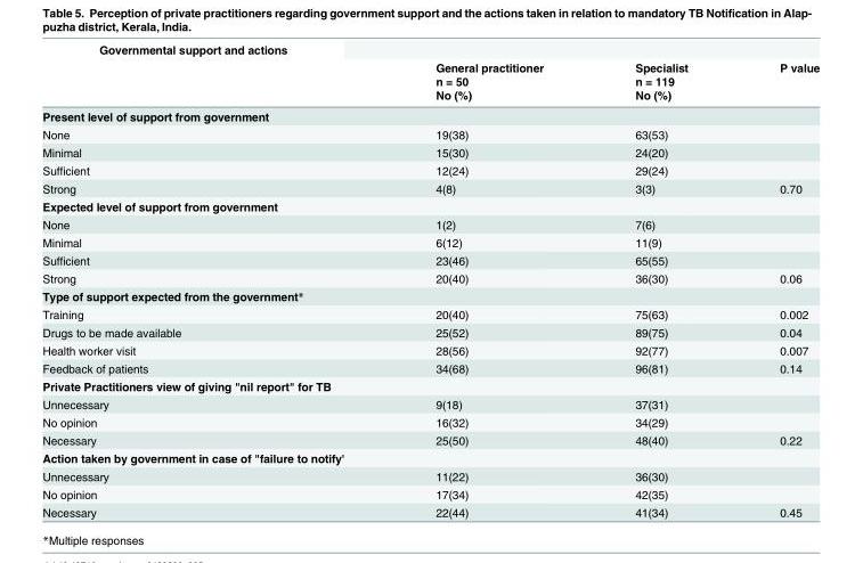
<table><thead><tr><td rowspan="4">Governmental support and actions</td><td rowspan="4">General practitioner n = 50 No (%)</td><td rowspan="4">Specialist n = 119 No (%)</td><td rowspan="4">P value</td></tr><tr></tr><tr></tr><tr></tr></thead><tbody><tr><td colspan="4">Present level of support from government</td></tr><tr><td>None</td><td>19(38)</td><td>63(53)</td><td></td></tr><tr><td>Minimal</td><td>15(30)</td><td>24(20)</td><td></td></tr><tr><td>Sufficient</td><td>12(24)</td><td>29(24)</td><td></td></tr><tr><td>Strong</td><td>4(8)</td><td>3(3)</td><td>0.70</td></tr><tr><td colspan="4">Expected level of support from government</td></tr><tr><td>None</td><td>1(2)</td><td>7(6)</td><td></td></tr><tr><td>Minimal</td><td>6(12)</td><td>11(9)</td><td></td></tr><tr><td>Sufficient</td><td>23(46)</td><td>65(55)</td><td></td></tr><tr><td>Strong</td><td>20(40)</td><td>36(30)</td><td>0.06</td></tr><tr><td colspan="4">Type of support expected from the government*</td></tr><tr><td>Training</td><td>20(40)</td><td>75(63)</td><td>0.002</td></tr><tr><td>Drugs to be made available</td><td>25(52)</td><td>89(75)</td><td>0.04</td></tr><tr><td>Health worker visit</td><td>28(56)</td><td>92(77)</td><td>0.007</td></tr><tr><td>Feedback of patients</td><td>34(68)</td><td>96(81)</td><td>0.14</td></tr><tr><td colspan="4">Private Practitioners view of giving &quot;nil report&quot; for TB</td></tr><tr><td>Unnecessary</td><td>9(18)</td><td>37(31)</td><td></td></tr><tr><td>No opinion</td><td>16(32)</td><td>34(29)</td><td></td></tr><tr><td>Necessary</td><td>25(50)</td><td>48(40)</td><td>0.22</td></tr><tr><td colspan="4">Action taken by government in case of &quot;failure to notify&#x27;</td></tr><tr><td>Unnecessary</td><td>11(22)</td><td>36(30)</td><td></td></tr><tr><td>No opinion</td><td>17(34)</td><td>42(35)</td><td></td></tr><tr><td>Necessary</td><td>22(44)</td><td>41(34)</td><td>0.45</td></tr></tbody></table>